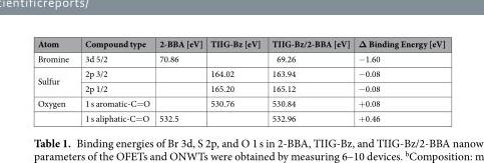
<table><thead><tr><td>Atom</td><td>Compound type</td><td>2-BBA [eV]</td><td>TIIG-Bz [eV]</td><td>TIIG-Bz/2-BBA [eV]</td><td>Δ Binding Energy [eV]</td></tr></thead><tbody><tr><td>Bromine</td><td>3d 5/2</td><td>70.86</td><td></td><td>69.26</td><td>−1.60</td></tr><tr><td rowspan="2">Sulfur</td><td>2p 3/2</td><td></td><td>164.02</td><td>163.94</td><td>−0.08</td></tr><tr><td>2p 1/2</td><td></td><td>165.20</td><td>165.12</td><td>−0.08</td></tr><tr><td rowspan="2">Oxygen</td><td>1 s aromatic-C=O</td><td></td><td>530.76</td><td>530.84</td><td>+0.08</td></tr><tr><td>1 s aliphatic-C=O</td><td>532.5</td><td></td><td>532.96</td><td>+0.46</td></tr></tbody></table>